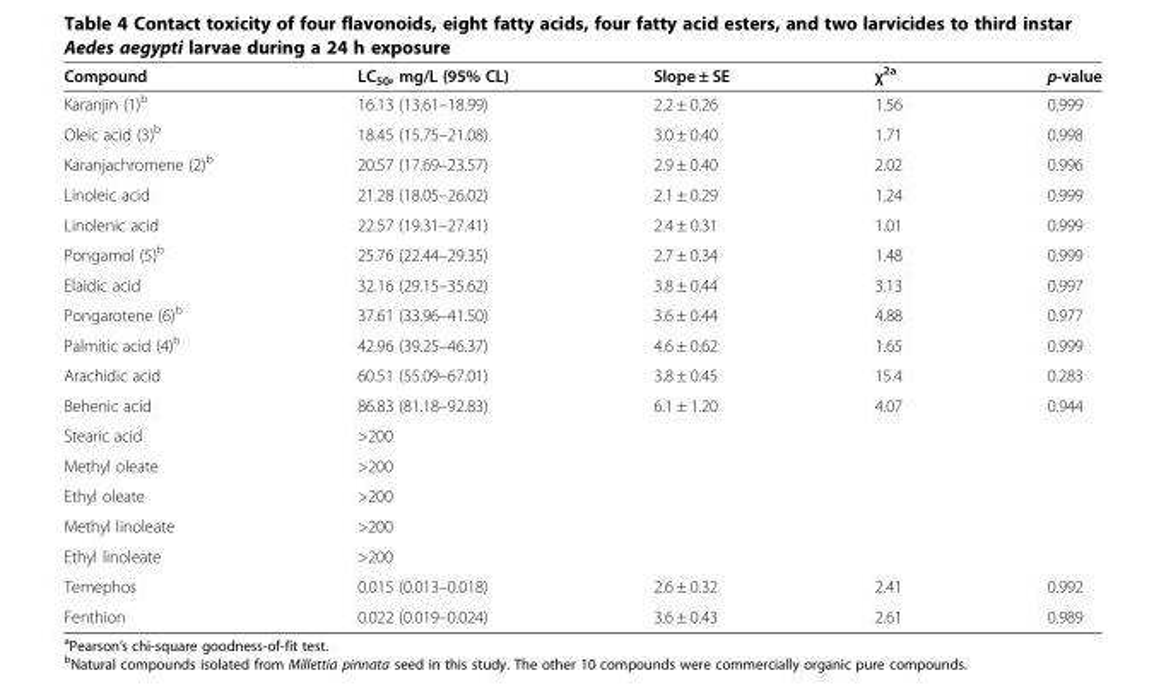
<table><thead><tr><td>Compound</td><td>LC<sub>50</sub>, mg/L (95% CL)</td><td>Slope ± SE</td><td>χ<sup>2a</sup></td><td>p-value</td></tr></thead><tbody><tr><td>Karanjin (1)<sup>b</sup></td><td>16.13 (13.61–18.99)</td><td>2.2 ± 0.26</td><td>1.56</td><td>0.999</td></tr><tr><td>Oleic acid (3)<sup>b</sup></td><td>18.45 (15.75–21.08)</td><td>3.0 ± 0.40</td><td>1.71</td><td>0.998</td></tr><tr><td>Karanjachromene (2)<sup>b</sup></td><td>20.57 (17.69–23.57)</td><td>2.9 ± 0.40</td><td>2.02</td><td>0.996</td></tr><tr><td>Linoleic acid</td><td>21.28 (18.05–26.02)</td><td>2.1 ± 0.29</td><td>1.24</td><td>0.999</td></tr><tr><td>Linolenic acid</td><td>22.57 (19.31–27.41)</td><td>2.4 ± 0.31</td><td>1.01</td><td>0.999</td></tr><tr><td>Pongamol (5)<sup>b</sup></td><td>25.76 (22.44–29.35)</td><td>2.7 ± 0.34</td><td>1.48</td><td>0.999</td></tr><tr><td>Elaidic acid</td><td>32.16 (29.15–35.62)</td><td>3.8 ± 0.44</td><td>3.13</td><td>0.997</td></tr><tr><td>Pongarotene (6)<sup>b</sup></td><td>37.61 (33.96–41.50)</td><td>3.6 ± 0.44</td><td>4.88</td><td>0.977</td></tr><tr><td>Palmitic acid (4)<sup>b</sup></td><td>42.96 (39.25–46.37)</td><td>4.6 ± 0.62</td><td>1.65</td><td>0.999</td></tr><tr><td>Arachidic acid</td><td>60.51 (55.09–67.01)</td><td>3.8 ± 0.45</td><td>15.4</td><td>0.283</td></tr><tr><td>Behenic acid</td><td>86.83 (81.18–92.83)</td><td>6.1 ± 1.20</td><td>4.07</td><td>0.944</td></tr><tr><td>Stearic acid</td><td>&gt;200</td><td></td><td></td><td></td></tr><tr><td>Methyl oleate</td><td>&gt;200</td><td></td><td></td><td></td></tr><tr><td>Ethyl oleate</td><td>&gt;200</td><td></td><td></td><td></td></tr><tr><td>Methyl linoleate</td><td>&gt;200</td><td></td><td></td><td></td></tr><tr><td>Ethyl linoleate</td><td>&gt;200</td><td></td><td></td><td></td></tr><tr><td>Temephos</td><td>0.015 (0.013–0.018)</td><td>2.6 ± 0.32</td><td>2.41</td><td>0.992</td></tr><tr><td>Fenthion</td><td>0.022 (0.019–0.024)</td><td>3.6 ± 0.43</td><td>2.61</td><td>0.989</td></tr></tbody></table>